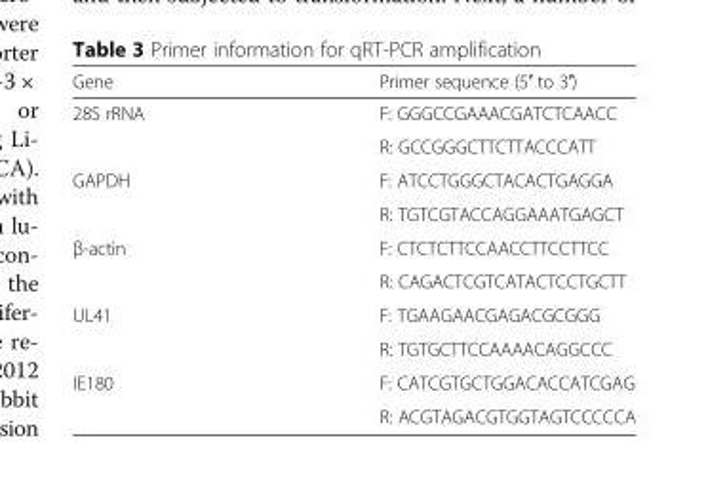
<table><thead><tr><td>Gene</td><td>Primer sequence (5′ to 3′)</td></tr></thead><tbody><tr><td rowspan="2">28S rRNA</td><td>F: GGGCCGAAACGATCTCAACC</td></tr><tr><td>R: GCCGGGCTTCTTACCCATT</td></tr><tr><td rowspan="2">GAPDH</td><td>F: ATCCTGGGCTACACTGAGGA</td></tr><tr><td>R: TGTCGTACCAGGAAATGAGCT</td></tr><tr><td rowspan="2">β-actin</td><td>F: CTCTCTTCCAACCTTCCTTCC</td></tr><tr><td>R: CAGACTCGTCATACTCCTGCTT</td></tr><tr><td rowspan="2">UL41</td><td>F: TGAAGAACGAGACGCGGG</td></tr><tr><td>R: TGTGCTTCCAAAACAGGCCC</td></tr><tr><td rowspan="2">IE180</td><td>F: CATCGTGCTGGACACCATCGAG</td></tr><tr><td>R: ACGTAGACGTGGTAGTCCCCCA</td></tr></tbody></table>